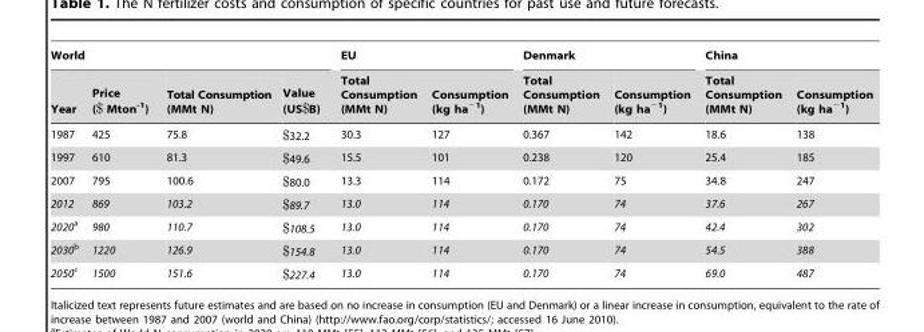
<table><thead><tr><td colspan="4">World</td><td colspan="2">EU</td><td colspan="2">Denmark</td><td colspan="2">China</td></tr><tr><td>Year</td><td>Price ($ Mton<sup>-1</sup>)</td><td>Total Consumption (MMt N)</td><td>Value (US$B)</td><td>Total Consumption (MMt N)</td><td>Consumption (kg ha<sup>−1</sup>)</td><td>Total Consumption (MMt N)</td><td>Consumption (kg ha<sup>−1</sup>)</td><td>Total Consumption (MMt N)</td><td>Consumption (kg ha<sup>−1</sup>)</td></tr></thead><tbody><tr><td>1987</td><td>425</td><td>75.8</td><td>$32.2</td><td>30.3</td><td>127</td><td>0.367</td><td>142</td><td>18.6</td><td>138</td></tr><tr><td>1997</td><td>610</td><td>81.3</td><td>$49.6</td><td>15.5</td><td>101</td><td>0.238</td><td>120</td><td>25.4</td><td>185</td></tr><tr><td>2007</td><td>795</td><td>100.6</td><td>$80.0</td><td>13.3</td><td>114</td><td>0.172</td><td>75</td><td>34.8</td><td>247</td></tr><tr><td>2012</td><td>869</td><td>103.2</td><td>$89.7</td><td>13.0</td><td>114</td><td>0.170</td><td>74</td><td>37.6</td><td>267</td></tr><tr><td>2020a</td><td>980</td><td>110.7</td><td>$108.5</td><td>13.0</td><td>114</td><td>0.170</td><td>74</td><td>42.4</td><td>302</td></tr><tr><td>2030b</td><td>1220</td><td>126.9</td><td>$154.8</td><td>13.0</td><td>114</td><td>0.170</td><td>74</td><td>54.5</td><td>388</td></tr><tr><td>2050c</td><td>1500</td><td>151.6</td><td>$227.4</td><td>13.0</td><td>114</td><td>0.170</td><td>74</td><td>69.0</td><td>487</td></tr></tbody></table>